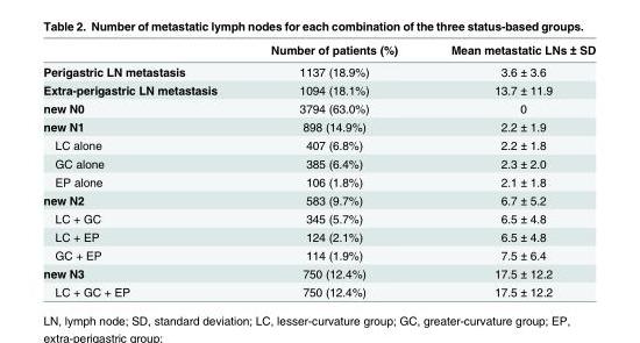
<table><thead><tr><td></td><td>Number of patients (%)</td><td>Mean metastatic LNs ± SD</td></tr></thead><tbody><tr><td>Perigastric LN metastasis</td><td>1137 (18.9%)</td><td>3.6 ± 3.6</td></tr><tr><td>Extra-perigastric LN metastasis</td><td>1094 (18.1%)</td><td>13.7 ± 11.9</td></tr><tr><td>new N0</td><td>3794 (63.0%)</td><td>0</td></tr><tr><td>new N1</td><td>898 (14.9%)</td><td>2.2 ± 1.9</td></tr><tr><td>LC alone</td><td>407 (6.8%)</td><td>2.2 ± 1.8</td></tr><tr><td>GC alone</td><td>385 (6.4%)</td><td>2.3 ± 2.0</td></tr><tr><td>EP alone</td><td>106 (1.8%)</td><td>2.1 ± 1.8</td></tr><tr><td>new N2</td><td>583 (9.7%)</td><td>6.7 ± 5.2</td></tr><tr><td>LC + GC</td><td>345 (5.7%)</td><td>6.5 ± 4.8</td></tr><tr><td>LC + EP</td><td>124 (2.1%)</td><td>6.5 ± 4.8</td></tr><tr><td>GC + EP</td><td>114 (1.9%)</td><td>7.5 ± 6.4</td></tr><tr><td>new N3</td><td>750 (12.4%)</td><td>17.5 ± 12.2</td></tr><tr><td>LC + GC + EP</td><td>750 (12.4%)</td><td>17.5 ± 12.2</td></tr></tbody></table>